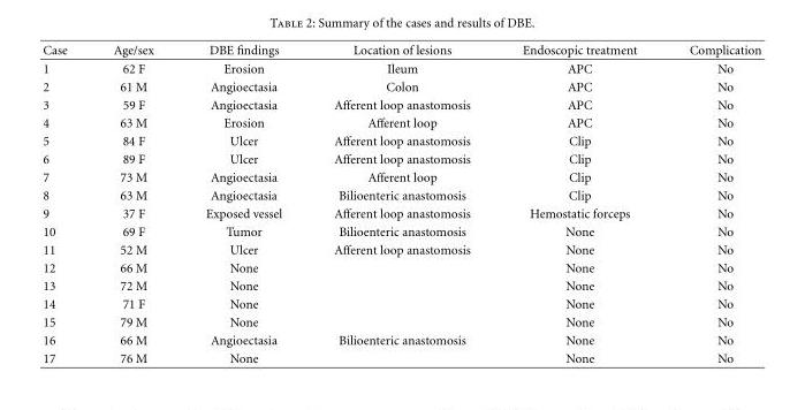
<table><thead><tr><td>Case</td><td>Age/sex</td><td>DBE findings</td><td>Location of lesions</td><td>Endoscopic treatment</td><td>Complication</td></tr></thead><tbody><tr><td>1</td><td>62 F</td><td>Erosion</td><td>Ileum</td><td>APC</td><td>No</td></tr><tr><td>2</td><td>61 M</td><td>Angioectasia</td><td>Colon</td><td>APC</td><td>No</td></tr><tr><td>3</td><td>59 F</td><td>Angioectasia</td><td>Afferent loop anastomosis</td><td>APC</td><td>No</td></tr><tr><td>4</td><td>63 M</td><td>Erosion</td><td>Afferent loop</td><td>APC</td><td>No</td></tr><tr><td>5</td><td>84 F</td><td>Ulcer</td><td>Afferent loop anastomosis</td><td>Clip</td><td>No</td></tr><tr><td>6</td><td>89 F</td><td>Ulcer</td><td>Afferent loop anastomosis</td><td>Clip</td><td>No</td></tr><tr><td>7</td><td>73 M</td><td>Angioectasia</td><td>Afferent loop</td><td>Clip</td><td>No</td></tr><tr><td>8</td><td>63 M</td><td>Angioectasia</td><td>Bilioenteric anastomosis</td><td>Clip</td><td>No</td></tr><tr><td>9</td><td>37 F</td><td>Exposed vessel</td><td>Afferent loop anastomosis</td><td>Hemostatic forceps</td><td>No</td></tr><tr><td>10</td><td>69 F</td><td>Tumor</td><td>Bilioenteric anastomosis</td><td>None</td><td>No</td></tr><tr><td>11</td><td>52 M</td><td>Ulcer</td><td>Afferent loop anastomosis</td><td>None</td><td>No</td></tr><tr><td>12</td><td>66 M</td><td>None</td><td></td><td>None</td><td>No</td></tr><tr><td>13</td><td>72 M</td><td>None</td><td></td><td>None</td><td>No</td></tr><tr><td>14</td><td>71 F</td><td>None</td><td></td><td>None</td><td>No</td></tr><tr><td>15</td><td>79 M</td><td>None</td><td></td><td>None</td><td>No</td></tr><tr><td>16</td><td>66 M</td><td>Angioectasia</td><td>Bilioenteric anastomosis</td><td>None</td><td>No</td></tr><tr><td>17</td><td>76 M</td><td>None</td><td></td><td>None</td><td>No</td></tr></tbody></table>